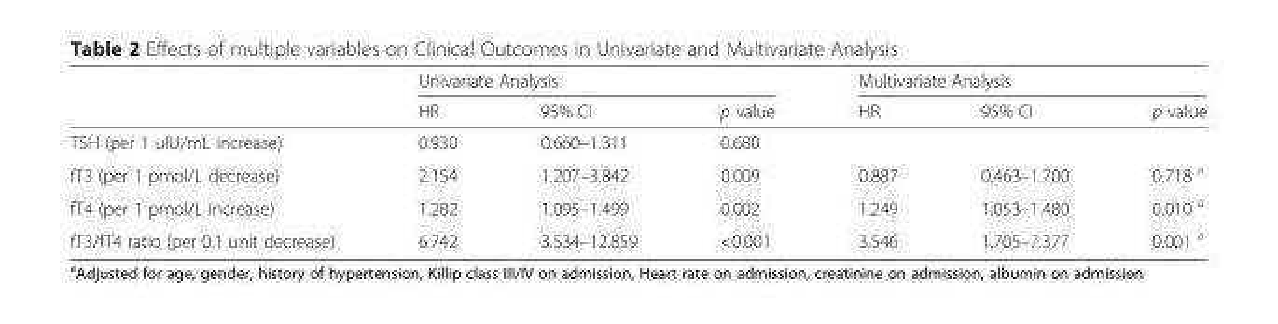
<table><thead><tr><td rowspan="2"></td><td colspan="3">Univariate Analysis</td><td colspan="3">Multivariate Analysis</td></tr><tr><td>HR</td><td>95% CI</td><td>p value</td><td>HR</td><td>95% CI</td><td>p value</td></tr></thead><tbody><tr><td>TSH (per 1 uIU/mL increase)</td><td>0.930</td><td>0.660–1.311</td><td>0.680</td><td></td><td></td><td></td></tr><tr><td>fT3 (per 1 pmol/L decrease)</td><td>2.154</td><td>1.207–3.842</td><td>0.009</td><td>0.887</td><td>0.463–1.700</td><td>0.718 <sup>a</sup></td></tr><tr><td>fT4 (per 1 pmol/L increase)</td><td>1.282</td><td>1.095–1.499</td><td>0.002</td><td>1.249</td><td>1.053–1.480</td><td>0.010 <sup>a</sup></td></tr><tr><td>fT3/fT4 ratio (per 0.1 unit decrease)</td><td>6.742</td><td>3.534–12.859</td><td>&lt;0.001</td><td>3.546</td><td>1.705–7.377</td><td>0.001 <sup>a</sup></td></tr></tbody></table>